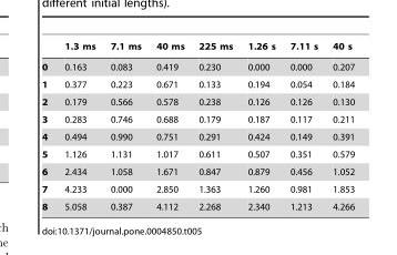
<table><thead><tr><td></td><td>1.3 ms</td><td>7.1 ms</td><td>40 ms</td><td>225 ms</td><td>1.26 s</td><td>7.11 s</td><td>40 s</td></tr></thead><tbody><tr><td>0</td><td>0.163</td><td>0.083</td><td>0.419</td><td>0.230</td><td>0.000</td><td>0.000</td><td>0.207</td></tr><tr><td>1</td><td>0.377</td><td>0.223</td><td>0.671</td><td>0.133</td><td>0.194</td><td>0.054</td><td>0.184</td></tr><tr><td>2</td><td>0.179</td><td>0.566</td><td>0.578</td><td>0.238</td><td>0.126</td><td>0.126</td><td>0.130</td></tr><tr><td>3</td><td>0.283</td><td>0.746</td><td>0.688</td><td>0.179</td><td>0.187</td><td>0.117</td><td>0.211</td></tr><tr><td>4</td><td>0.494</td><td>0.990</td><td>0.751</td><td>0.291</td><td>0.424</td><td>0.149</td><td>0.391</td></tr><tr><td>5</td><td>1.126</td><td>1.131</td><td>1.017</td><td>0.611</td><td>0.507</td><td>0.351</td><td>0.579</td></tr><tr><td>6</td><td>2.434</td><td>1.058</td><td>1.671</td><td>0.847</td><td>0.879</td><td>0.456</td><td>1.052</td></tr><tr><td>7</td><td>4.233</td><td>0.000</td><td>2.850</td><td>1.363</td><td>1.260</td><td>0.981</td><td>1.853</td></tr><tr><td>8</td><td>5.058</td><td>0.387</td><td>4.112</td><td>2.268</td><td>2.340</td><td>1.213</td><td>4.266</td></tr></tbody></table>